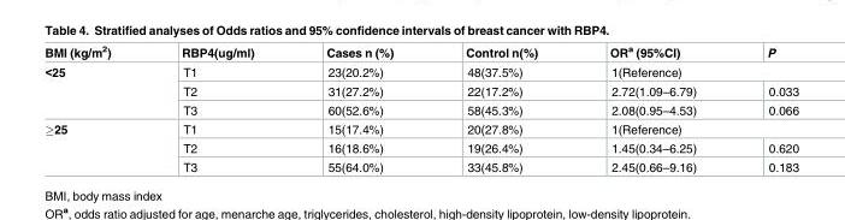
<table><thead><tr><td>BMI (kg/m<sup>2</sup>)</td><td>RBP4(ug/ml)</td><td>Cases n (%)</td><td>Control n(%)</td><td>OR<sup>a</sup> (95%CI)</td><td>P</td></tr></thead><tbody><tr><td rowspan="3">&lt;25</td><td>T1</td><td>23(20.2%)</td><td>48(37.5%)</td><td colspan="2">1(Reference)</td></tr><tr><td>T2</td><td>31(27.2%)</td><td>22(17.2%)</td><td>2.72(1.09–6.79)</td><td>0.033</td></tr><tr><td>T3</td><td>60(52.6%)</td><td>58(45.3%)</td><td>2.08(0.95–4.53)</td><td>0.066</td></tr><tr><td rowspan="3">≥25</td><td>T1</td><td>15(17.4%)</td><td>20(27.8%)</td><td colspan="2">1(Reference)</td></tr><tr><td>T2</td><td>16(18.6%)</td><td>19(26.4%)</td><td>1.45(0.34–6.25)</td><td>0.620</td></tr><tr><td>T3</td><td>55(64.0%)</td><td>33(45.8%)</td><td>2.45(0.66–9.16)</td><td>0.183</td></tr></tbody></table>